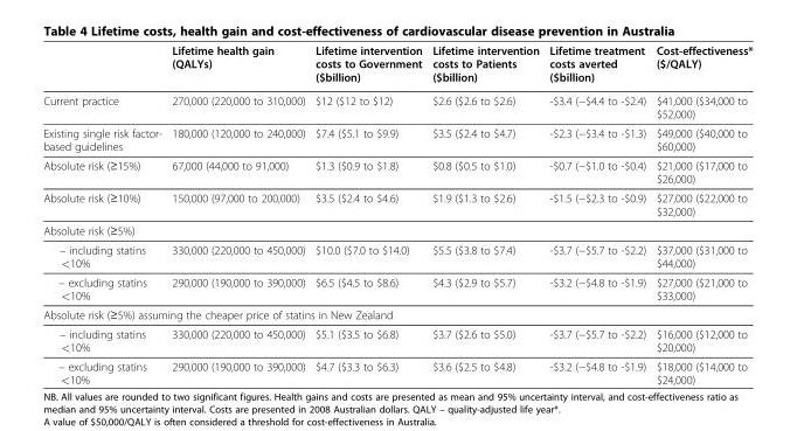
<table><thead><tr><td></td><td>Lifetime health gain (QALYs)</td><td>Lifetime intervention costs to Government ($billion)</td><td>Lifetime intervention costs to Patients ($billion)</td><td>Lifetime treatment costs averted ($billion)</td><td>Cost-effectiveness* ($/QALY)</td></tr></thead><tbody><tr><td>Current practice</td><td>270,000 (220,000 to 310,000)</td><td>$12 ($12 to $12)</td><td>$2.6 ($2.6 to $2.6)</td><td>-$3.4 (−$4.4 to -$2.4)</td><td>$41,000 ($34,000 to $52,000)</td></tr><tr><td>Existing single risk factor- based guidelines</td><td>180,000 (120,000 to 240,000)</td><td>$7.4 ($5.1 to $9.9)</td><td>$3.5 ($2.4 to $4.7)</td><td>-$2.3 (−$3.4 to -$1.3)</td><td>$49,000 ($40,000 to $60,000)</td></tr><tr><td>Absolute risk (≥15%)</td><td>67,000 (44,000 to 91,000)</td><td>$1.3 ($0.9 to $1.8)</td><td>$0.8 ($0.5 to $1.0)</td><td>-$0.7 (−$1.0 to -$0.4)</td><td>$21,000 ($17,000 to $26,000)</td></tr><tr><td>Absolute risk (≥10%)</td><td>150,000 (97,000 to 200,000)</td><td>$3.5 ($2.4 to $4.6)</td><td>$1.9 ($1.3 to $2.6)</td><td>-$1.5 (−$2.3 to -$0.9)</td><td>$27,000 ($22,000 to $32,000)</td></tr><tr><td colspan="6">Absolute risk (≥5%)</td></tr><tr><td>– including statins &lt;10%</td><td>330,000 (220,000 to 450,000)</td><td>$10.0 ($7.0 to $14.0)</td><td>$5.5 ($3.8 to $7.4)</td><td>-$3.7 (−$5.7 to -$2.2)</td><td>$37,000 ($31,000 to $44,000)</td></tr><tr><td>– excluding statins &lt;10%</td><td>290,000 (190,000 to 390,000)</td><td>$6.5 ($4.5 to $8.6)</td><td>$4.3 ($2.9 to $5.7)</td><td>-$3.2 (−$4.8 to -$1.9)</td><td>$27,000 ($21,000 to $33,000)</td></tr><tr><td colspan="6">Absolute risk (≥5%) assuming the cheaper price of statins in New Zealand</td></tr><tr><td>– including statins &lt;10%</td><td>330,000 (220,000 to 450,000)</td><td>$5.1 ($3.5 to $6.8)</td><td>$3.7 ($2.6 to $5.0)</td><td>-$3.7 (−$5.7 to -$2.2)</td><td>$16,000 ($12,000 to $20,000)</td></tr><tr><td>– excluding statins &lt;10%</td><td>290,000 (190,000 to 390,000)</td><td>$4.7 ($3.3 to $6.3)</td><td>$3.6 ($2.5 to $4.8)</td><td>-$3.2 (−$4.8 to -$1.9)</td><td>$18,000 ($14,000 to $24,000)</td></tr></tbody></table>